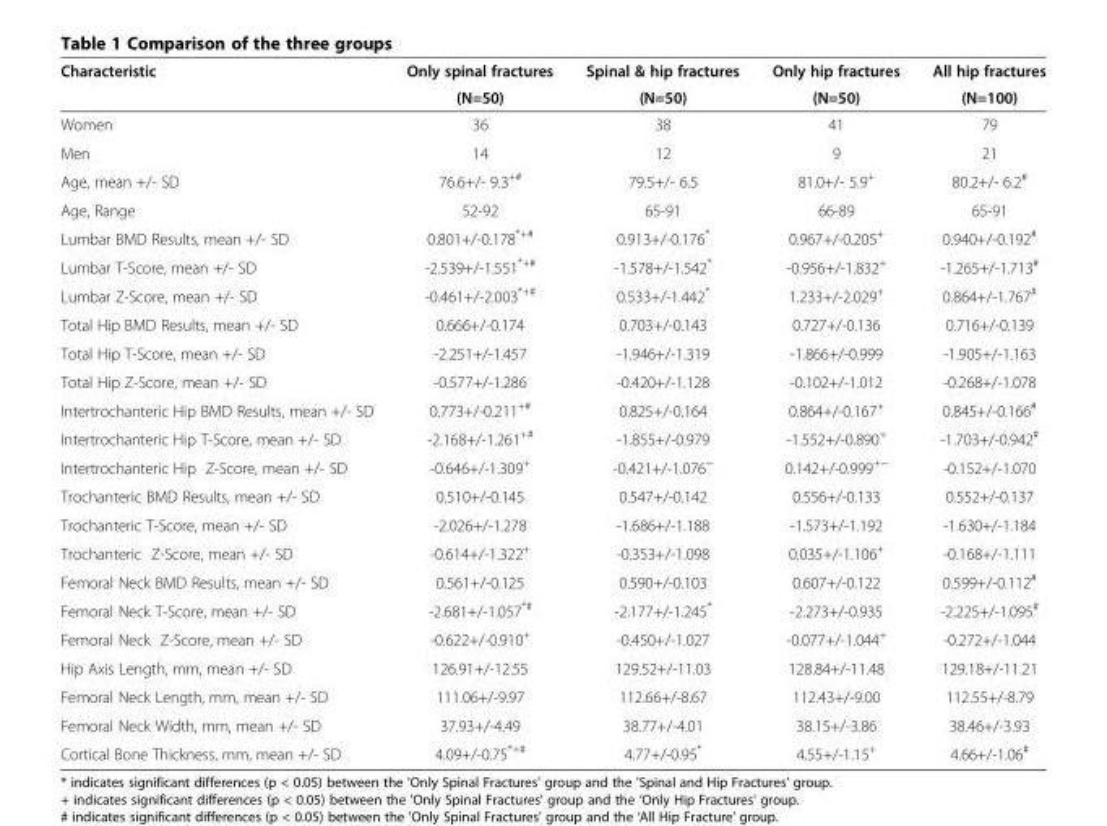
<table><thead><tr><td rowspan="2">Characteristic</td><td rowspan="2">Only spinal fractures (N=50)</td><td rowspan="2">Spinal &amp; hip fractures (N=50)</td><td rowspan="2">Only hip fractures (N=50)</td><td rowspan="2">All hip fractures (N=100)</td></tr><tr></tr></thead><tbody><tr><td>Women</td><td>36</td><td>38</td><td>41</td><td>79</td></tr><tr><td>Men</td><td>14</td><td>12</td><td>9</td><td>21</td></tr><tr><td>Age, mean +/- SD</td><td>76.6+/- 9.3<sup>+#</sup></td><td>79.5+/- 6.5</td><td>81.0+/- 5.9<sup>+</sup></td><td>80.2+/- 6.2<sup>#</sup></td></tr><tr><td>Age, Range</td><td>52-92</td><td>65-91</td><td>66-89</td><td>65-91</td></tr><tr><td>Lumbar BMD Results, mean +/- SD</td><td>0.801+/-0.178<sup>*+#</sup></td><td>0.913+/-0.176*</td><td>0.967+/-0.205<sup>+</sup></td><td>0.940+/-0.192<sup>#</sup></td></tr><tr><td>Lumbar T-Score, mean +/- SD</td><td>-2.539+/-1.551<sup>*+#</sup></td><td>-1.578+/-1.542*</td><td>-0.956+/-1.832<sup>+</sup></td><td>-1.265+/-1.713<sup>#</sup></td></tr><tr><td>Lumbar Z-Score, mean +/- SD</td><td>-0.461+/-2.003<sup>*+#</sup></td><td>0.533+/-1.442*</td><td>1.233+/-2.029<sup>+</sup></td><td>0.864+/-1.767<sup>#</sup></td></tr><tr><td>Total Hip BMD Results, mean +/- SD</td><td>0.666+/-0.174</td><td>0.703+/-0.143</td><td>0.727+/-0.136</td><td>0.716+/-0.139</td></tr><tr><td>Total Hip T-Score, mean +/- SD</td><td>-2.251+/-1.457</td><td>-1.946+/-1.319</td><td>-1.866+/-0.999</td><td>-1.905+/-1.163</td></tr><tr><td>Total Hip Z-Score, mean +/- SD</td><td>-0.577+/-1.286</td><td>-0.420+/-1.128</td><td>-0.102+/-1.012</td><td>-0.268+/-1.078</td></tr><tr><td>Intertrochanteric Hip BMD Results, mean +/- SD</td><td>0.773+/-0.211<sup>+#</sup></td><td>0.825+/-0.164</td><td>0.864+/-0.167<sup>+</sup></td><td>0.845+/-0.166<sup>#</sup></td></tr><tr><td>Intertrochanteric Hip T-Score, mean +/- SD</td><td>-2.168+/-1.261<sup>+#</sup></td><td>-1.855+/-0.979</td><td>-1.552+/-0.890<sup>+</sup></td><td>-1.703+/-0.942<sup>#</sup></td></tr><tr><td>Intertrochanteric Hip Z-Score, mean +/- SD</td><td>-0.646+/-1.309<sup>+</sup></td><td>-0.421+/-1.076<sup>~</sup></td><td>0.142+/-0.999<sup>+~</sup></td><td>-0.152+/-1.070</td></tr><tr><td>Trochanteric BMD Results, mean +/- SD</td><td>0.510+/-0.145</td><td>0.547+/-0.142</td><td>0.556+/-0.133</td><td>0.552+/-0.137</td></tr><tr><td>Trochanteric T-Score, mean +/- SD</td><td>-2.026+/-1.278</td><td>-1.686+/-1.188</td><td>-1.573+/-1.192</td><td>-1.630+/-1.184</td></tr><tr><td>Trochanteric Z-Score, mean +/- SD</td><td>-0.614+/-1.322<sup>+</sup></td><td>-0.353+/-1.098</td><td>0.035+/-1.106<sup>+</sup></td><td>-0.168+/-1.111</td></tr><tr><td>Femoral Neck BMD Results, mean +/- SD</td><td>0.561+/-0.125</td><td>0.590+/-0.103</td><td>0.607+/-0.122</td><td>0.599+/-0.112<sup>#</sup></td></tr><tr><td>Femoral Neck T-Score, mean +/- SD</td><td>-2.681+/-1.057<sup>*#</sup></td><td>-2.177+/-1.245*</td><td>-2.273+/-0.935</td><td>-2.225+/-1.095<sup>#</sup></td></tr><tr><td>Femoral Neck Z-Score, mean +/- SD</td><td>-0.622+/-0.910<sup>+</sup></td><td>-0.450+/-1.027</td><td>-0.077+/-1.044<sup>+</sup></td><td>-0.272+/-1.044</td></tr><tr><td>Hip Axis Length, mm, mean +/- SD</td><td>126.91+/-12.55</td><td>129.52+/-11.03</td><td>128.84+/-11.48</td><td>129.18+/-11.21</td></tr><tr><td>Femoral Neck Length, mm, mean +/- SD</td><td>111.06+/-9.97</td><td>112.66+/-8.67</td><td>112.43+/-9.00</td><td>112.55+/-8.79</td></tr><tr><td>Femoral Neck Width, mm, mean +/- SD</td><td>37.93+/-4.49</td><td>38.77+/-4.01</td><td>38.15+/-3.86</td><td>38.46+/-3.93</td></tr><tr><td>Cortical Bone Thickness, mm, mean +/- SD</td><td>4.09+/-0.75<sup>*+#</sup></td><td>4.77+/-0.95*</td><td>4.55+/-1.15<sup>+</sup></td><td>4.66+/-1.06<sup>#</sup></td></tr></tbody></table>